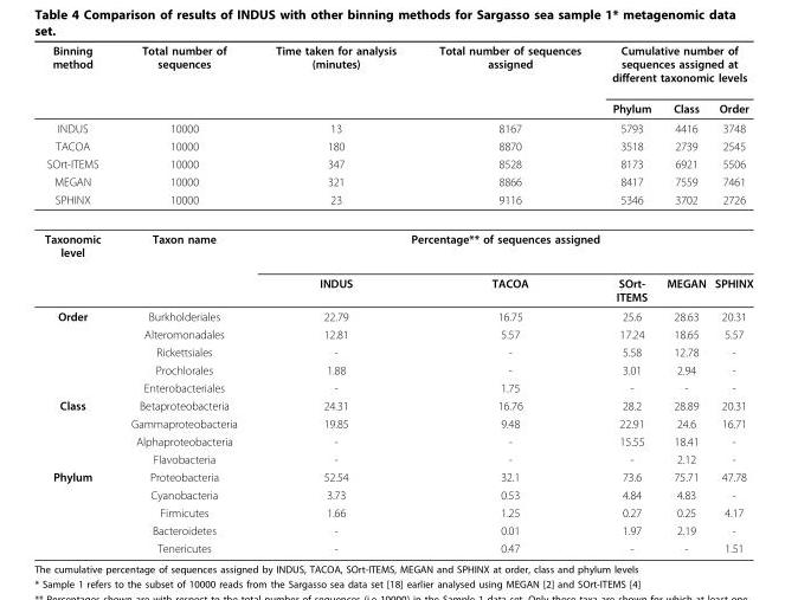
<table><thead><tr><td rowspan="2">Binning method</td><td rowspan="2">Total number of sequences</td><td rowspan="2">Time taken for analysis (minutes)</td><td rowspan="2">Total number of sequences assigned</td><td colspan="3">Cumulative number of sequences assigned at different taxonomic levels</td></tr><tr><td>Phylum</td><td>Class</td><td>Order</td></tr></thead><tbody><tr><td>INDUS</td><td>10000</td><td>13</td><td>8167</td><td>5793</td><td>4416</td><td>3748</td></tr><tr><td>TACOA</td><td>10000</td><td>180</td><td>8870</td><td>3518</td><td>2739</td><td>2545</td></tr><tr><td>SOrt-ITEMS</td><td>10000</td><td>347</td><td>8528</td><td>8173</td><td>6921</td><td>5506</td></tr><tr><td>MEGAN</td><td>10000</td><td>321</td><td>8866</td><td>8417</td><td>7559</td><td>7461</td></tr><tr><td>SPHINX</td><td>10000</td><td>23</td><td>9116</td><td>5346</td><td>3702</td><td>2726</td></tr><tr><td rowspan="2">Taxonomic level</td><td>Taxon name</td><td colspan="5">Percentage** of sequences assigned</td></tr><tr><td></td><td>INDUS</td><td>TACOA</td><td>SOrt- ITEMS</td><td>MEGAN</td><td>SPHINX</td></tr><tr><td rowspan="5">Order</td><td>Burkholderiales</td><td>22.79</td><td>16.75</td><td>25.6</td><td>28.63</td><td>20.31</td></tr><tr><td>Alteromonadales</td><td>12.81</td><td>5.57</td><td>17.24</td><td>18.65</td><td>5.57</td></tr><tr><td>Rickettsiales</td><td>-</td><td>-</td><td>5.58</td><td>12.78</td><td>-</td></tr><tr><td>Prochlorales</td><td>1.88</td><td>-</td><td>3.01</td><td>2.94</td><td>-</td></tr><tr><td>Enterobacteriales</td><td>-</td><td>1.75</td><td>-</td><td>-</td><td>-</td></tr><tr><td rowspan="4">Class</td><td>Betaproteobacteria</td><td>24.31</td><td>16.76</td><td>28.2</td><td>28.89</td><td>20.31</td></tr><tr><td>Gammaproteobacteria</td><td>19.85</td><td>9.48</td><td>22.91</td><td>24.6</td><td>16.71</td></tr><tr><td>Alphaproteobacteria</td><td>-</td><td>-</td><td>15.55</td><td>18.41</td><td>-</td></tr><tr><td>Flavobacteria</td><td>-</td><td>-</td><td>-</td><td>2.12</td><td>-</td></tr><tr><td rowspan="5">Phylum</td><td>Proteobacteria</td><td>52.54</td><td>32.1</td><td>73.6</td><td>75.71</td><td>47.78</td></tr><tr><td>Cyanobacteria</td><td>3.73</td><td>0.53</td><td>4.84</td><td>4.83</td><td>-</td></tr><tr><td>Firmicutes</td><td>1.66</td><td>1.25</td><td>0.27</td><td>0.25</td><td>4.17</td></tr><tr><td>Bacteroidetes</td><td>-</td><td>0.01</td><td>1.97</td><td>2.19</td><td>-</td></tr><tr><td>Tenericutes</td><td>-</td><td>0.47</td><td>-</td><td>-</td><td>1.51</td></tr></tbody></table>